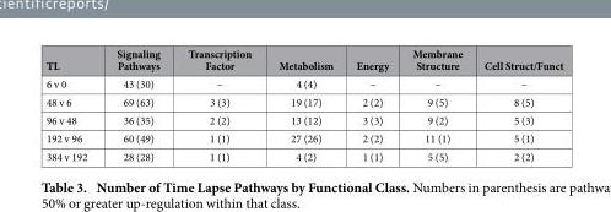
<table><thead><tr><td>TL</td><td>Signaling Pathways</td><td>Transcription Factor</td><td>Metabolism</td><td>Energy</td><td>Membrane Structure</td><td>Cell Struct/Funct</td></tr></thead><tbody><tr><td>6 v 0</td><td>43 (30)</td><td>–</td><td>4 (4)</td><td>–</td><td>–</td><td>–</td></tr><tr><td>48 v 6</td><td>69 (63)</td><td>3 (3)</td><td>19 (17)</td><td>2 (2)</td><td>9 (5)</td><td>8 (5)</td></tr><tr><td>96 v 48</td><td>36 (35)</td><td>2 (2)</td><td>13 (12)</td><td>3 (3)</td><td>9 (2)</td><td>5 (3)</td></tr><tr><td>192 v 96</td><td>60 (49)</td><td>1 (1)</td><td>27 (26)</td><td>2 (2)</td><td>11 (1)</td><td>5 (1)</td></tr><tr><td>384 v 192</td><td>28 (28)</td><td>1 (1)</td><td>4 (2)</td><td>1 (1)</td><td>5 (5)</td><td>2 (2)</td></tr></tbody></table>